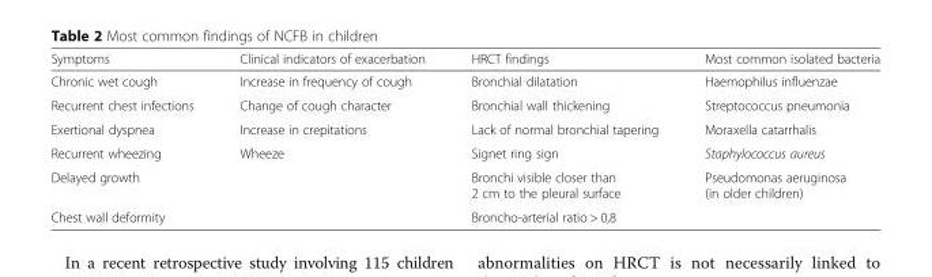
<table><thead><tr><td>Symptoms</td><td>Clinical indicators of exacerbation</td><td>HRCT findings</td><td>Most common isolated bacteria</td></tr></thead><tbody><tr><td>Chronic wet cough</td><td>Increase in frequency of cough</td><td>Bronchial dilatation</td><td>Haemophilus influenzae</td></tr><tr><td>Recurrent chest infections</td><td>Change of cough character</td><td>Bronchial wall thickening</td><td>Streptococcus pneumonia</td></tr><tr><td>Exertional dyspnea</td><td>Increase in crepitations</td><td>Lack of normal bronchial tapering</td><td>Moraxella catarrhalis</td></tr><tr><td>Recurrent wheezing</td><td>Wheeze</td><td>Signet ring sign</td><td>Staphylococcus aureus</td></tr><tr><td>Delayed growth</td><td></td><td>Bronchi visible closer than 2 cm to the pleural surface</td><td>Pseudomonas aeruginosa (in older children)</td></tr><tr><td>Chest wall deformity</td><td></td><td>Broncho-arterial ratio &gt; 0,8</td><td></td></tr></tbody></table>